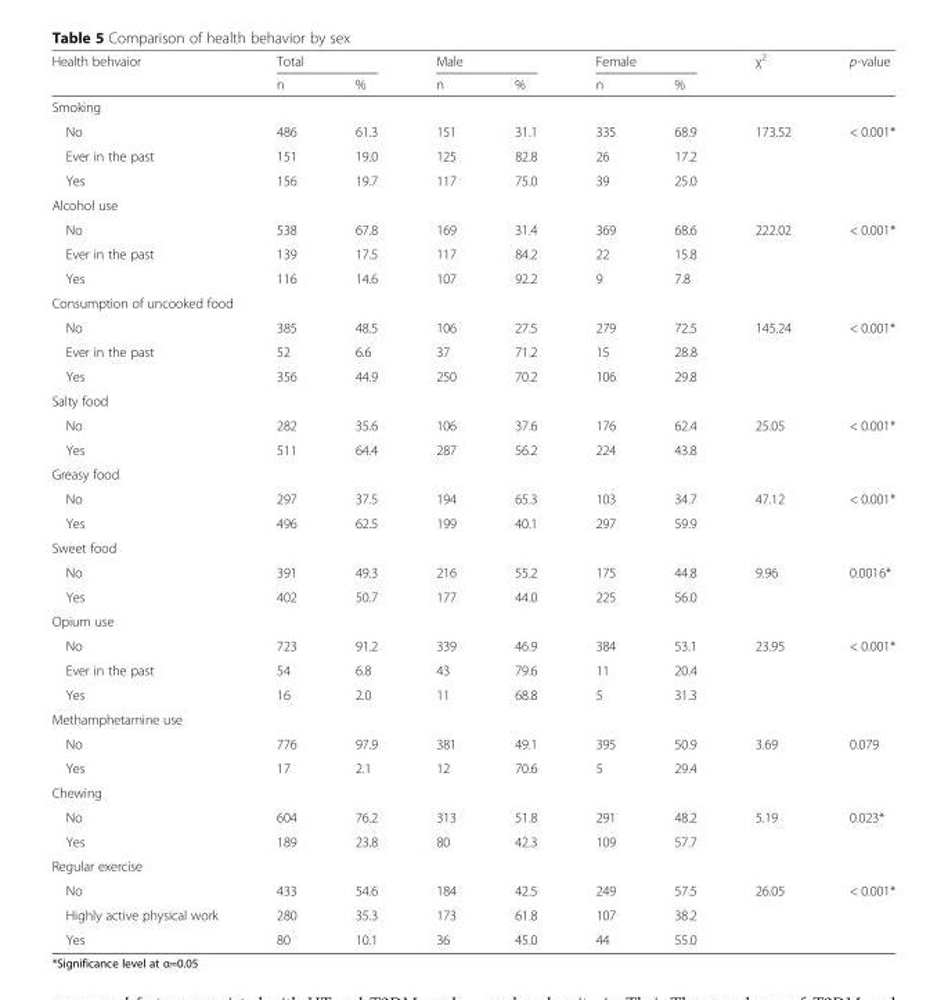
<table><thead><tr><td rowspan="2">Health behvaior</td><td colspan="2">Total</td><td colspan="2">Male</td><td colspan="2">Female</td><td rowspan="2">χ<sup>2</sup></td><td rowspan="2">p-value</td></tr><tr><td>n</td><td>%</td><td>n</td><td>%</td><td>n</td><td>%</td></tr></thead><tbody><tr><td colspan="9">Smoking</td></tr><tr><td>No</td><td>486</td><td>61.3</td><td>151</td><td>31.1</td><td>335</td><td>68.9</td><td>173.52</td><td>&lt; 0.001*</td></tr><tr><td>Ever in the past</td><td>151</td><td>19.0</td><td>125</td><td>82.8</td><td>26</td><td>17.2</td><td></td><td></td></tr><tr><td>Yes</td><td>156</td><td>19.7</td><td>117</td><td>75.0</td><td>39</td><td>25.0</td><td></td><td></td></tr><tr><td colspan="9">Alcohol use</td></tr><tr><td>No</td><td>538</td><td>67.8</td><td>169</td><td>31.4</td><td>369</td><td>68.6</td><td>222.02</td><td>&lt; 0.001*</td></tr><tr><td>Ever in the past</td><td>139</td><td>17.5</td><td>117</td><td>84.2</td><td>22</td><td>15.8</td><td></td><td></td></tr><tr><td>Yes</td><td>116</td><td>14.6</td><td>107</td><td>92.2</td><td>9</td><td>7.8</td><td></td><td></td></tr><tr><td colspan="9">Consumption of uncooked food</td></tr><tr><td>No</td><td>385</td><td>48.5</td><td>106</td><td>27.5</td><td>279</td><td>72.5</td><td>145.24</td><td>&lt; 0.001*</td></tr><tr><td>Ever in the past</td><td>52</td><td>6.6</td><td>37</td><td>71.2</td><td>15</td><td>28.8</td><td></td><td></td></tr><tr><td>Yes</td><td>356</td><td>44.9</td><td>250</td><td>70.2</td><td>106</td><td>29.8</td><td></td><td></td></tr><tr><td colspan="9">Salty food</td></tr><tr><td>No</td><td>282</td><td>35.6</td><td>106</td><td>37.6</td><td>176</td><td>62.4</td><td>25.05</td><td>&lt; 0.001*</td></tr><tr><td>Yes</td><td>511</td><td>64.4</td><td>287</td><td>56.2</td><td>224</td><td>43.8</td><td></td><td></td></tr><tr><td colspan="9">Greasy food</td></tr><tr><td>No</td><td>297</td><td>37.5</td><td>194</td><td>65.3</td><td>103</td><td>34.7</td><td>47.12</td><td>&lt; 0.001*</td></tr><tr><td>Yes</td><td>496</td><td>62.5</td><td>199</td><td>40.1</td><td>297</td><td>59.9</td><td></td><td></td></tr><tr><td colspan="9">Sweet food</td></tr><tr><td>No</td><td>391</td><td>49.3</td><td>216</td><td>55.2</td><td>175</td><td>44.8</td><td>9.96</td><td>0.0016*</td></tr><tr><td>Yes</td><td>402</td><td>50.7</td><td>177</td><td>44.0</td><td>225</td><td>56.0</td><td></td><td></td></tr><tr><td colspan="9">Opium use</td></tr><tr><td>No</td><td>723</td><td>91.2</td><td>339</td><td>46.9</td><td>384</td><td>53.1</td><td>23.95</td><td>&lt; 0.001*</td></tr><tr><td>Ever in the past</td><td>54</td><td>6.8</td><td>43</td><td>79.6</td><td>11</td><td>20.4</td><td></td><td></td></tr><tr><td>Yes</td><td>16</td><td>2.0</td><td>11</td><td>68.8</td><td>5</td><td>31.3</td><td></td><td></td></tr><tr><td colspan="9">Methamphetamine use</td></tr><tr><td>No</td><td>776</td><td>97.9</td><td>381</td><td>49.1</td><td>395</td><td>50.9</td><td>3.69</td><td>0.079</td></tr><tr><td>Yes</td><td>17</td><td>2.1</td><td>12</td><td>70.6</td><td>5</td><td>29.4</td><td></td><td></td></tr><tr><td colspan="9">Chewing</td></tr><tr><td>No</td><td>604</td><td>76.2</td><td>313</td><td>51.8</td><td>291</td><td>48.2</td><td>5.19</td><td>0.023*</td></tr><tr><td>Yes</td><td>189</td><td>23.8</td><td>80</td><td>42.3</td><td>109</td><td>57.7</td><td></td><td></td></tr><tr><td colspan="9">Regular exercise</td></tr><tr><td>No</td><td>433</td><td>54.6</td><td>184</td><td>42.5</td><td>249</td><td>57.5</td><td>26.05</td><td>&lt; 0.001*</td></tr><tr><td>Highly active physical work</td><td>280</td><td>35.3</td><td>173</td><td>61.8</td><td>107</td><td>38.2</td><td></td><td></td></tr><tr><td>Yes</td><td>80</td><td>10.1</td><td>36</td><td>45.0</td><td>44</td><td>55.0</td><td></td><td></td></tr></tbody></table>